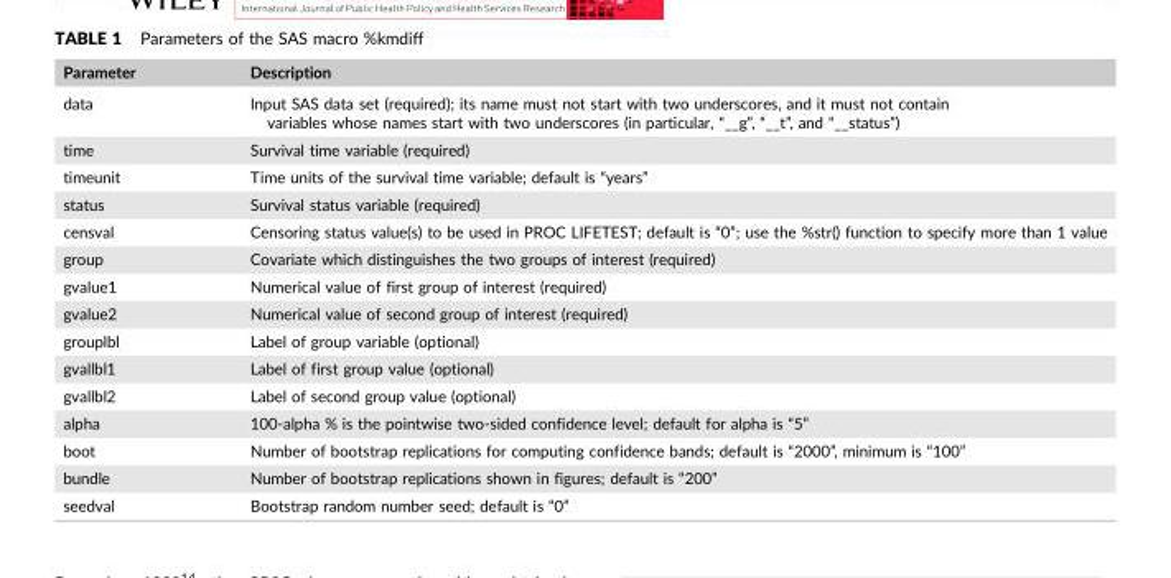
<table><thead><tr><td>Parameter</td><td>Description</td></tr></thead><tbody><tr><td>data</td><td>Input SAS data set (required); its name must not start with two underscores, and it must not contain variables whose names start with two underscores (in particular, “__g”, “__t”, and “__status”)</td></tr><tr><td>time</td><td>Survival time variable (required)</td></tr><tr><td>timeunit</td><td>Time units of the survival time variable; default is “years”</td></tr><tr><td>status</td><td>Survival status variable (required)</td></tr><tr><td>censval</td><td>Censoring status value(s) to be used in PROC LIFETEST; default is “0”; use the %str() function to specify more than 1 value</td></tr><tr><td>group</td><td>Covariate which distinguishes the two groups of interest (required)</td></tr><tr><td>gvalue1</td><td>Numerical value of first group of interest (required)</td></tr><tr><td>gvalue2</td><td>Numerical value of second group of interest (required)</td></tr><tr><td>grouplbl</td><td>Label of group variable (optional)</td></tr><tr><td>gvallbl1</td><td>Label of first group value (optional)</td></tr><tr><td>gvallbl2</td><td>Label of second group value (optional)</td></tr><tr><td>alpha</td><td>100‐alpha % is the pointwise two‐sided confidence level; default for alpha is “5”</td></tr><tr><td>boot</td><td>Number of bootstrap replications for computing confidence bands; default is “2000”, minimum is “100”</td></tr><tr><td>bundle</td><td>Number of bootstrap replications shown in figures; default is “200”</td></tr><tr><td>seedval</td><td>Bootstrap random number seed; default is “0”</td></tr></tbody></table>